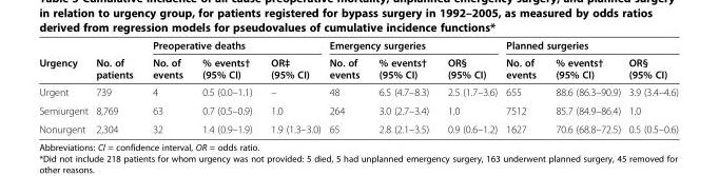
<table><thead><tr><td rowspan="2">Urgency</td><td rowspan="2">No. of patients</td><td colspan="3">Preoperative deaths</td><td colspan="3">Emergency surgeries</td><td colspan="3">Planned surgeries</td></tr><tr><td>No. of events</td><td>% events† (95% CI)</td><td>OR‡ (95% CI)</td><td>No. of events</td><td>% events† (95% CI)</td><td>OR§ (95% CI)</td><td>No. of events</td><td>% events† (95% CI)</td><td>OR§ (95% CI)</td></tr></thead><tbody><tr><td>Urgent</td><td>739</td><td>4</td><td>0.5 (0.0–1.1)</td><td>–</td><td>48</td><td>6.5 (4.7–8.3)</td><td>2.5 (1.7–3.6)</td><td>655</td><td>88.6 (86.3–90.9)</td><td>3.9 (3.4–4.6)</td></tr><tr><td>Semiurgent</td><td>8,769</td><td>63</td><td>0.7 (0.5–0.9)</td><td>1.0</td><td>264</td><td>3.0 (2.7–3.4)</td><td>1.0</td><td>7512</td><td>85.7 (84.9–86.4)</td><td>1.0</td></tr><tr><td>Nonurgent</td><td>2,304</td><td>32</td><td>1.4 (0.9–1.9)</td><td>1.9 (1.3–3.0)</td><td>65</td><td>2.8 (2.1–3.5)</td><td>0.9 (0.6–1.2)</td><td>1627</td><td>70.6 (68.8–72.5)</td><td>0.5 (0.5–0.6)</td></tr></tbody></table>